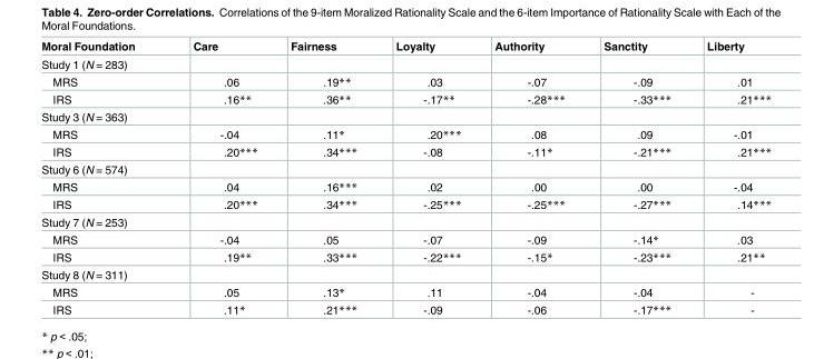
<table><thead><tr><td>Moral Foundation</td><td>Care</td><td>Fairness</td><td>Loyalty</td><td>Authority</td><td>Sanctity</td><td>Liberty</td></tr></thead><tbody><tr><td colspan="7">Study 1 (N = 283)</td></tr><tr><td>MRS</td><td>.06</td><td>.19**</td><td>.03</td><td>-.07</td><td>-.09</td><td>.01</td></tr><tr><td>IRS</td><td>.16**</td><td>.36**</td><td>-.17**</td><td>-.28***</td><td>-.33***</td><td>.21***</td></tr><tr><td colspan="7">Study 3 (N = 363)</td></tr><tr><td>MRS</td><td>-.04</td><td>.11*</td><td>.20***</td><td>.08</td><td>.09</td><td>-.01</td></tr><tr><td>IRS</td><td>.20***</td><td>.34***</td><td>-.08</td><td>-.11*</td><td>-.21***</td><td>.21***</td></tr><tr><td colspan="7">Study 6 (N = 574)</td></tr><tr><td>MRS</td><td>.04</td><td>.16***</td><td>.02</td><td>.00</td><td>.00</td><td>-.04</td></tr><tr><td>IRS</td><td>.20***</td><td>.34***</td><td>-.25***</td><td>-.25***</td><td>-.27***</td><td>.14***</td></tr><tr><td colspan="7">Study 7 (N = 253)</td></tr><tr><td>MRS</td><td>-.04</td><td>.05</td><td>-.07</td><td>-.09</td><td>-.14*</td><td>.03</td></tr><tr><td>IRS</td><td>.19**</td><td>.33***</td><td>-.22***</td><td>-.15*</td><td>-.23***</td><td>.21**</td></tr><tr><td colspan="7">Study 8 (N = 311)</td></tr><tr><td>MRS</td><td>.05</td><td>.13*</td><td>.11</td><td>-.04</td><td>-.04</td><td>-</td></tr><tr><td>IRS</td><td>.11*</td><td>.21***</td><td>-.09</td><td>-.06</td><td>-.17***</td><td>-</td></tr></tbody></table>